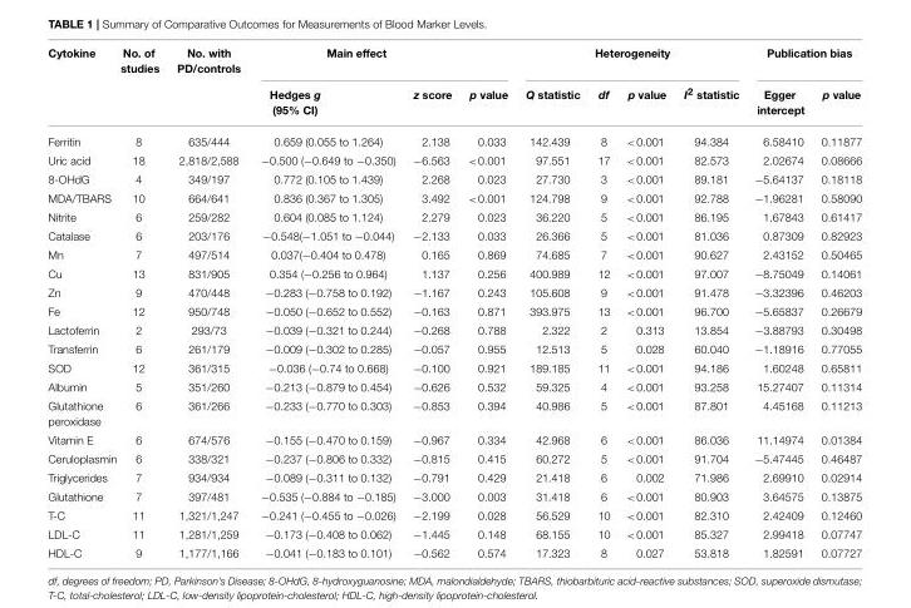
<table><thead><tr><td rowspan="2">Cytokine</td><td rowspan="2">No. of studies</td><td rowspan="2">No. with PD/controls</td><td colspan="2">Main effect</td><td rowspan="2">p value</td><td colspan="4">Heterogeneity</td><td colspan="2">Publication bias</td></tr><tr><td>Hedges g (95% CI)</td><td>z score</td><td>Q statistic</td><td>df</td><td>p value</td><td>I<sup>2</sup> statistic</td><td>Egger intercept</td><td>p value</td></tr></thead><tbody><tr><td>Ferritin</td><td>8</td><td>635/444</td><td>0.659 (0.055 to 1.264)</td><td>2.138</td><td>0.033</td><td>142.439</td><td>8</td><td>&lt;0.001</td><td>94.384</td><td>6.58410</td><td>0.11877</td></tr><tr><td>Uric acid</td><td>18</td><td>2,818/2,588</td><td>−0.500 (−0.649 to −0.350)</td><td>−6.563</td><td>&lt;0.001</td><td>97.551</td><td>17</td><td>&lt;0.001</td><td>82.573</td><td>2.02674</td><td>0.08666</td></tr><tr><td>8-OHdG</td><td>4</td><td>349/197</td><td>0.772 (0.105 to 1.439)</td><td>2.268</td><td>0.023</td><td>27.730</td><td>3</td><td>&lt;0.001</td><td>89.181</td><td>−5.64137</td><td>0.18118</td></tr><tr><td>MDA/TBARS</td><td>10</td><td>664/641</td><td>0.836 (0.367 to 1.305)</td><td>3.492</td><td>&lt;0.001</td><td>124.798</td><td>9</td><td>&lt;0.001</td><td>92.788</td><td>−1.96281</td><td>0.58090</td></tr><tr><td>Nitrite</td><td>6</td><td>259/282</td><td>0.604 (0.085 to 1.124)</td><td>2.279</td><td>0.023</td><td>36.220</td><td>5</td><td>&lt;0.001</td><td>86.195</td><td>1.67843</td><td>0.61417</td></tr><tr><td>Catalase</td><td>6</td><td>203/176</td><td>−0.548(−1.051 to −0.044)</td><td>−2.133</td><td>0.033</td><td>26.366</td><td>5</td><td>&lt;0.001</td><td>81.036</td><td>0.87309</td><td>0.82923</td></tr><tr><td>Mn</td><td>7</td><td>497/514</td><td>0.037(−0.404 to 0.478)</td><td>0.165</td><td>0.869</td><td>74.685</td><td>7</td><td>&lt;0.001</td><td>90.627</td><td>2.43152</td><td>0.50465</td></tr><tr><td>Cu</td><td>13</td><td>831/905</td><td>0.354 (−0.256 to 0.964)</td><td>1.137</td><td>0.256</td><td>400.989</td><td>12</td><td>&lt;0.001</td><td>97.007</td><td>−8.75049</td><td>0.14061</td></tr><tr><td>Zn</td><td>9</td><td>470/448</td><td>−0.283 (−0.758 to 0.192)</td><td>−1.167</td><td>0.243</td><td>105.608</td><td>9</td><td>&lt;0.001</td><td>91.478</td><td>−3.32396</td><td>0.46203</td></tr><tr><td>Fe</td><td>12</td><td>950/748</td><td>−0.050 (−0.652 to 0.552)</td><td>−0.163</td><td>0.871</td><td>393.975</td><td>13</td><td>&lt;0.001</td><td>96.700</td><td>−5.65837</td><td>0.26679</td></tr><tr><td>Lactoferrin</td><td>2</td><td>293/73</td><td>−0.039 (−0.321 to 0.244)</td><td>−0.268</td><td>0.788</td><td>2.322</td><td>2</td><td>0.313</td><td>13.854</td><td>−3.88793</td><td>0.30498</td></tr><tr><td>Transferrin</td><td>6</td><td>261/179</td><td>−0.009 (−0.302 to 0.285)</td><td>−0.057</td><td>0.955</td><td>12.513</td><td>5</td><td>0.028</td><td>60.040</td><td>−1.18916</td><td>0.77055</td></tr><tr><td>SOD</td><td>12</td><td>361/315</td><td>−0.036 (−0.74 to 0.668)</td><td>−0.100</td><td>0.921</td><td>189.185</td><td>11</td><td>&lt;0.001</td><td>94.186</td><td>1.60248</td><td>0.65811</td></tr><tr><td>Albumin</td><td>5</td><td>351/260</td><td>−0.213 (−0.879 to 0.454)</td><td>−0.626</td><td>0.532</td><td>59.325</td><td>4</td><td>&lt;0.001</td><td>93.258</td><td>15.27407</td><td>0.11314</td></tr><tr><td>Glutathione peroxidase</td><td>6</td><td>361/266</td><td>−0.233 (−0.770 to 0.303)</td><td>−0.853</td><td>0.394</td><td>40.986</td><td>5</td><td>&lt;0.001</td><td>87.801</td><td>4.45168</td><td>0.11213</td></tr><tr><td>Vitamin E</td><td>6</td><td>674/576</td><td>−0.155 (−0.470 to 0.159)</td><td>−0.967</td><td>0.334</td><td>42.968</td><td>6</td><td>&lt;0.001</td><td>86.036</td><td>11.14974</td><td>0.01384</td></tr><tr><td>Ceruloplasmin</td><td>6</td><td>338/321</td><td>−0.237 (−0.806 to 0.332)</td><td>−0.815</td><td>0.415</td><td>60.272</td><td>5</td><td>&lt;0.001</td><td>91.704</td><td>−5.47445</td><td>0.46487</td></tr><tr><td>Triglycerides</td><td>7</td><td>934/934</td><td>−0.089 (−0.311 to 0.132)</td><td>−0.791</td><td>0.429</td><td>21.418</td><td>6</td><td>0.002</td><td>71.986</td><td>2.69910</td><td>0.02914</td></tr><tr><td>Glutathione</td><td>7</td><td>397/481</td><td>−0.535 (−0.884 to −0.185)</td><td>−3.000</td><td>0.003</td><td>31.418</td><td>6</td><td>&lt;0.001</td><td>80.903</td><td>3.64575</td><td>0.13875</td></tr><tr><td>T-C</td><td>11</td><td>1,321/1,247</td><td>−0.241 (−0.455 to −0.026)</td><td>−2.199</td><td>0.028</td><td>56.529</td><td>10</td><td>&lt;0.001</td><td>82.310</td><td>2.42409</td><td>0.12460</td></tr><tr><td>LDL-C</td><td>11</td><td>1,281/1,259</td><td>−0.173 (−0.408 to 0.062)</td><td>−1.445</td><td>0.148</td><td>68.155</td><td>10</td><td>&lt;0.001</td><td>85.327</td><td>2.99418</td><td>0.07747</td></tr><tr><td>HDL-C</td><td>9</td><td>1,177/1,166</td><td>−0.041 (−0.183 to 0.101)</td><td>−0.562</td><td>0.574</td><td>17.323</td><td>8</td><td>0.027</td><td>53.818</td><td>1.82591</td><td>0.07727</td></tr></tbody></table>